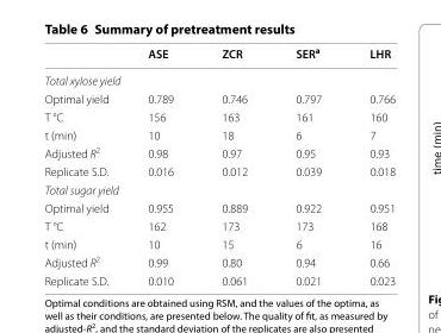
<table><thead><tr><td></td><td>ASE</td><td>ZCR</td><td>SER<sup>a</sup></td><td>LHR</td></tr></thead><tbody><tr><td colspan="5">Total xylose yield</td></tr><tr><td>Optimal yield</td><td>0.789</td><td>0.746</td><td>0.797</td><td>0.766</td></tr><tr><td>T °C</td><td>156</td><td>163</td><td>161</td><td>160</td></tr><tr><td>t (min)</td><td>10</td><td>18</td><td>6</td><td>7</td></tr><tr><td>Adjusted R<sup>2</sup></td><td>0.98</td><td>0.97</td><td>0.95</td><td>0.93</td></tr><tr><td>Replicate S.D.</td><td>0.016</td><td>0.012</td><td>0.039</td><td>0.018</td></tr><tr><td colspan="5">Total sugar yield</td></tr><tr><td>Optimal yield</td><td>0.955</td><td>0.889</td><td>0.922</td><td>0.951</td></tr><tr><td>T °C</td><td>162</td><td>173</td><td>173</td><td>168</td></tr><tr><td>t (min)</td><td>10</td><td>15</td><td>6</td><td>16</td></tr><tr><td>Adjusted R<sup>2</sup></td><td>0.99</td><td>0.80</td><td>0.94</td><td>0.66</td></tr><tr><td>Replicate S.D.</td><td>0.010</td><td>0.061</td><td>0.021</td><td>0.023</td></tr></tbody></table>